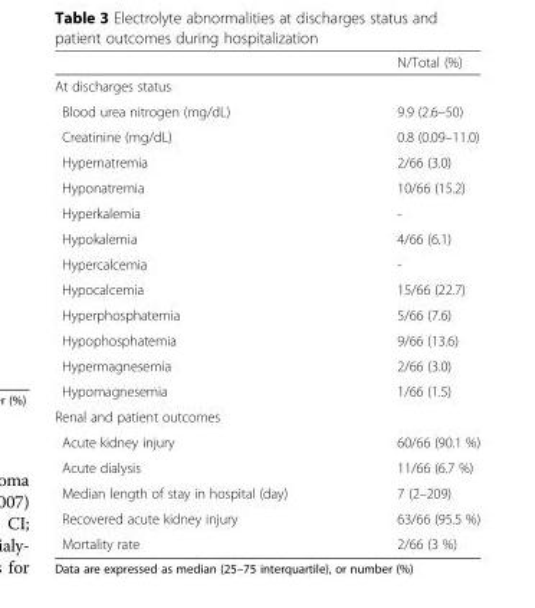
<table><thead><tr><td></td><td>N/Total (%)</td></tr></thead><tbody><tr><td colspan="2">At discharges status</td></tr><tr><td>Blood urea nitrogen (mg/dL)</td><td>9.9 (2.6–50)</td></tr><tr><td>Creatinine (mg/dL)</td><td>0.8 (0.09–11.0)</td></tr><tr><td>Hypernatremia</td><td>2/66 (3.0)</td></tr><tr><td>Hyponatremia</td><td>10/66 (15.2)</td></tr><tr><td>Hyperkalemia</td><td>-</td></tr><tr><td>Hypokalemia</td><td>4/66 (6.1)</td></tr><tr><td>Hypercalcemia</td><td>-</td></tr><tr><td>Hypocalcemia</td><td>15/66 (22.7)</td></tr><tr><td>Hyperphosphatemia</td><td>5/66 (7.6)</td></tr><tr><td>Hypophosphatemia</td><td>9/66 (13.6)</td></tr><tr><td>Hypermagnesemia</td><td>2/66 (3.0)</td></tr><tr><td>Hypomagnesemia</td><td>1/66 (1.5)</td></tr><tr><td colspan="2">Renal and patient outcomes</td></tr><tr><td>Acute kidney injury</td><td>60/66 (90.1 %)</td></tr><tr><td>Acute dialysis</td><td>11/66 (6.7 %)</td></tr><tr><td>Median length of stay in hospital (day)</td><td>7 (2–209)</td></tr><tr><td>Recovered acute kidney injury</td><td>63/66 (95.5 %)</td></tr><tr><td>Mortality rate</td><td>2/66 (3 %)</td></tr></tbody></table>